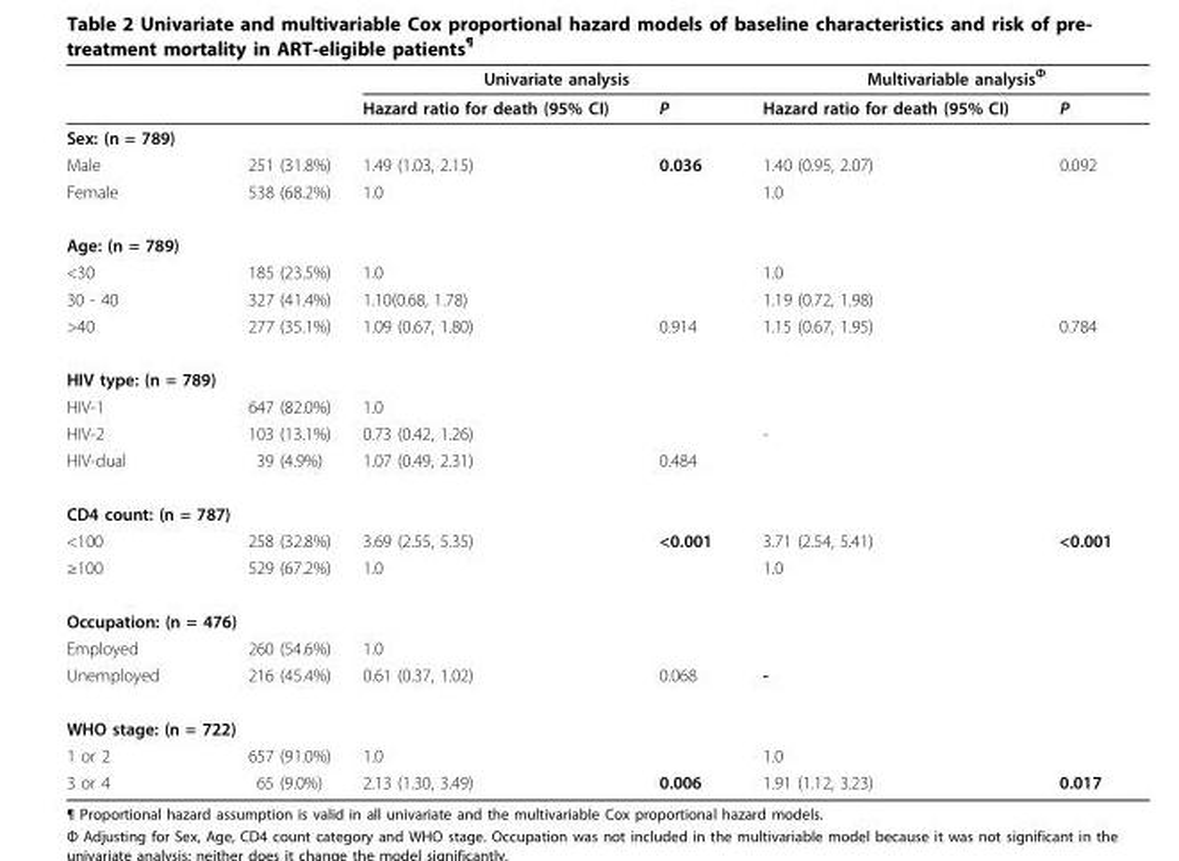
<table><thead><tr><td rowspan="2"></td><td rowspan="2"></td><td colspan="2">Univariate analysis</td><td colspan="2">Multivariable analysis<sup>Ф</sup></td></tr><tr><td>Hazard ratio for death (95% CI)</td><td>P</td><td>Hazard ratio for death (95% CI)</td><td>P</td></tr></thead><tbody><tr><td colspan="6">Sex: (n = 789)</td></tr><tr><td>Male</td><td>251 (31.8%)</td><td>1.49 (1.03, 2.15)</td><td>0.036</td><td>1.40 (0.95, 2.07)</td><td>0.092</td></tr><tr><td>Female</td><td>538 (68.2%)</td><td>1.0</td><td></td><td>1.0</td><td></td></tr><tr><td colspan="6">Age: (n = 789)</td></tr><tr><td>&lt;30</td><td>185 (23.5%)</td><td>1.0</td><td></td><td>1.0</td><td></td></tr><tr><td>30 - 40</td><td>327 (41.4%)</td><td>1.10(0.68, 1.78)</td><td></td><td>1.19 (0.72, 1.98)</td><td></td></tr><tr><td>&gt;40</td><td>277 (35.1%)</td><td>1.09 (0.67, 1.80)</td><td>0.914</td><td>1.15 (0.67, 1.95)</td><td>0.784</td></tr><tr><td colspan="6">HIV type: (n = 789)</td></tr><tr><td>HIV-1</td><td>647 (82.0%)</td><td>1.0</td><td></td><td></td><td></td></tr><tr><td>HIV-2</td><td>103 (13.1%)</td><td>0.73 (0.42, 1.26)</td><td></td><td>-</td><td></td></tr><tr><td>HIV-dual</td><td>39 (4.9%)</td><td>1.07 (0.49, 2.31)</td><td>0.484</td><td></td><td></td></tr><tr><td colspan="6">CD4 count: (n = 787)</td></tr><tr><td>&lt;100</td><td>258 (32.8%)</td><td>3.69 (2.55, 5.35)</td><td>&lt;0.001</td><td>3.71 (2.54, 5.41)</td><td>&lt;0.001</td></tr><tr><td>≥100</td><td>529 (67.2%)</td><td>1.0</td><td></td><td>1.0</td><td></td></tr><tr><td colspan="6">Occupation: (n = 476)</td></tr><tr><td>Employed</td><td>260 (54.6%)</td><td>1.0</td><td></td><td></td><td></td></tr><tr><td>Unemployed</td><td>216 (45.4%)</td><td>0.61 (0.37, 1.02)</td><td>0.068</td><td>-</td><td></td></tr><tr><td colspan="6">WHO stage: (n = 722)</td></tr><tr><td>1 or 2</td><td>657 (91.0%)</td><td>1.0</td><td></td><td>1.0</td><td></td></tr><tr><td>3 or 4</td><td>65 (9.0%)</td><td>2.13 (1.30, 3.49)</td><td>0.006</td><td>1.91 (1.12, 3.23)</td><td>0.017</td></tr></tbody></table>